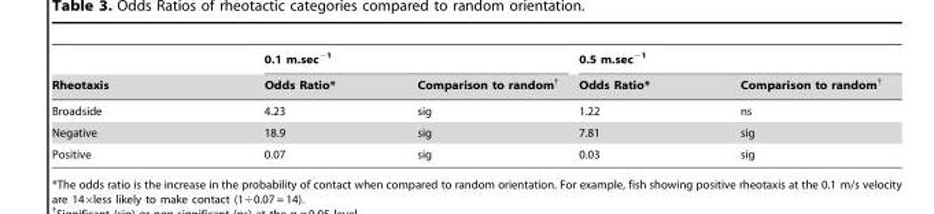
<table><thead><tr><td rowspan="2">Rheotaxis</td><td colspan="2">0.1 m.sec<sup>−1</sup></td><td colspan="2">0.5 m.sec<sup>−1</sup></td></tr><tr><td>Odds Ratio*</td><td>Comparison to random†</td><td>Odds Ratio*</td><td>Comparison to random†</td></tr></thead><tbody><tr><td>Broadside</td><td>4.23</td><td>sig</td><td>1.22</td><td>ns</td></tr><tr><td>Negative</td><td>18.9</td><td>sig</td><td>7.81</td><td>sig</td></tr><tr><td>Positive</td><td>0.07</td><td>sig</td><td>0.03</td><td>sig</td></tr></tbody></table>